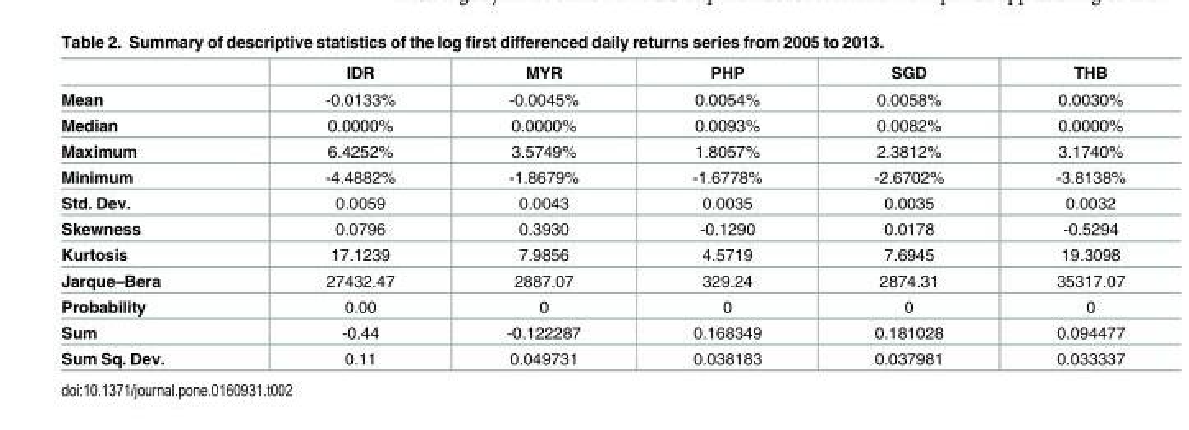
<table><thead><tr><td></td><td>IDR</td><td>MYR</td><td>PHP</td><td>SGD</td><td>THB</td></tr></thead><tbody><tr><td>Mean</td><td>-0.0133%</td><td>-0.0045%</td><td>0.0054%</td><td>0.0058%</td><td>0.0030%</td></tr><tr><td>Median</td><td>0.0000%</td><td>0.0000%</td><td>0.0093%</td><td>0.0082%</td><td>0.0000%</td></tr><tr><td>Maximum</td><td>6.4252%</td><td>3.5749%</td><td>1.8057%</td><td>2.3812%</td><td>3.1740%</td></tr><tr><td>Minimum</td><td>-4.4882%</td><td>-1.8679%</td><td>-1.6778%</td><td>-2.6702%</td><td>-3.8138%</td></tr><tr><td>Std. Dev.</td><td>0.0059</td><td>0.0043</td><td>0.0035</td><td>0.0035</td><td>0.0032</td></tr><tr><td>Skewness</td><td>0.0796</td><td>0.3930</td><td>-0.1290</td><td>0.0178</td><td>-0.5294</td></tr><tr><td>Kurtosis</td><td>17.1239</td><td>7.9856</td><td>4.5719</td><td>7.6945</td><td>19.3098</td></tr><tr><td>Jarque–Bera</td><td>27432.47</td><td>2887.07</td><td>329.24</td><td>2874.31</td><td>35317.07</td></tr><tr><td>Probability</td><td>0.00</td><td>0</td><td>0</td><td>0</td><td>0</td></tr><tr><td>Sum</td><td>-0.44</td><td>-0.122287</td><td>0.168349</td><td>0.181028</td><td>0.094477</td></tr><tr><td>Sum Sq. Dev.</td><td>0.11</td><td>0.049731</td><td>0.038183</td><td>0.037981</td><td>0.033337</td></tr></tbody></table>